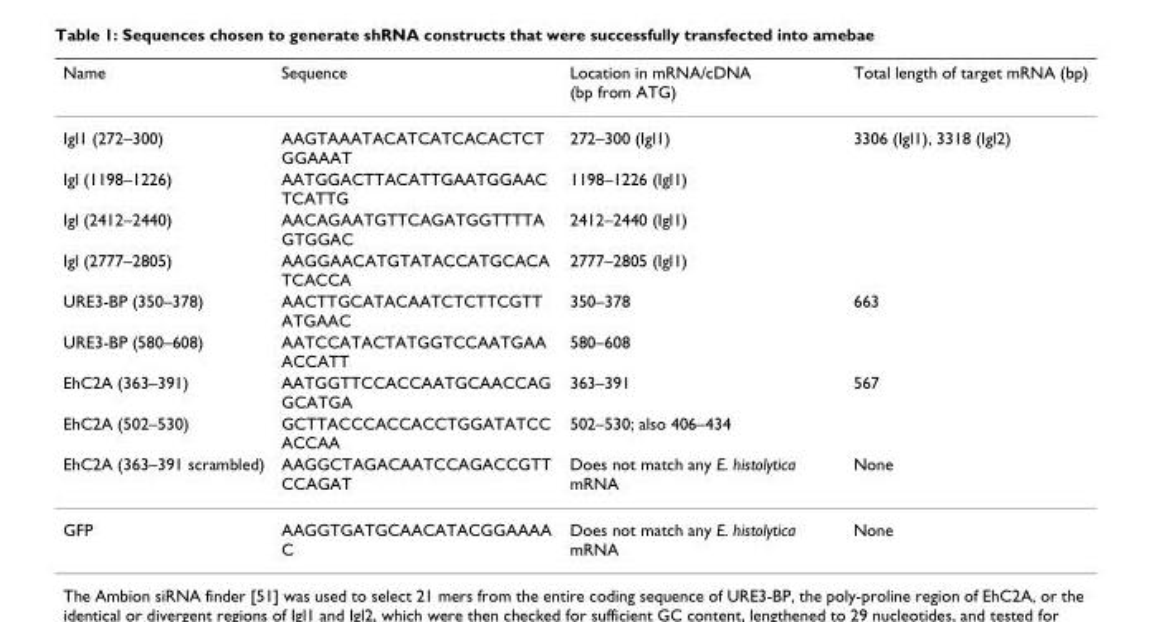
<table><thead><tr><td>Name</td><td>Sequence</td><td>Location in mRNA/cDNA (bp from ATG)</td><td>Total length of target mRNA (bp)</td></tr></thead><tbody><tr><td>Igl1 (272–300)</td><td>AAGTAAATACATCATCACACTCT GGAAAT</td><td>272–300 (Igl1)</td><td>3306 (Igl1), 3318 (Igl2)</td></tr><tr><td>Igl (1198–1226)</td><td>AATGGACTTACATTGAATGGAAC TCATTG</td><td>1198–1226 (Igl1)</td><td></td></tr><tr><td>Igl (2412–2440)</td><td>AACAGAATGTTCAGATGGTTTTA GTGGAC</td><td>2412–2440 (Igl1)</td><td></td></tr><tr><td>Igl (2777–2805)</td><td>AAGGAACATGTATACCATGCACA TCACCA</td><td>2777–2805 (Igl1)</td><td></td></tr><tr><td>URE3-BP (350–378)</td><td>AACTTGCATACAATCTCTTCGTT ATGAAC</td><td>350–378</td><td>663</td></tr><tr><td>URE3-BP (580–608)</td><td>AATCCATACTATGGTCCAATGAA ACCATT</td><td>580–608</td><td></td></tr><tr><td>EhC2A (363–391)</td><td>AATGGTTCCACCAATGCAACCAG GCATGA</td><td>363–391</td><td>567</td></tr><tr><td>EhC2A (502–530)</td><td>GCTTACCCACCACCTGGATATCC ACCAA</td><td>502–530; also 406–434</td><td></td></tr><tr><td>EhC2A (363–391 scrambled)</td><td>AAGGCTAGACAATCCAGACCGTT CCAGAT</td><td>Does not match any E. histolytica mRNA</td><td>None</td></tr><tr><td>GFP</td><td>AAGGTGATGCAACATACGGAAAA C</td><td>Does not match any E. histolytica mRNA</td><td>None</td></tr></tbody></table>